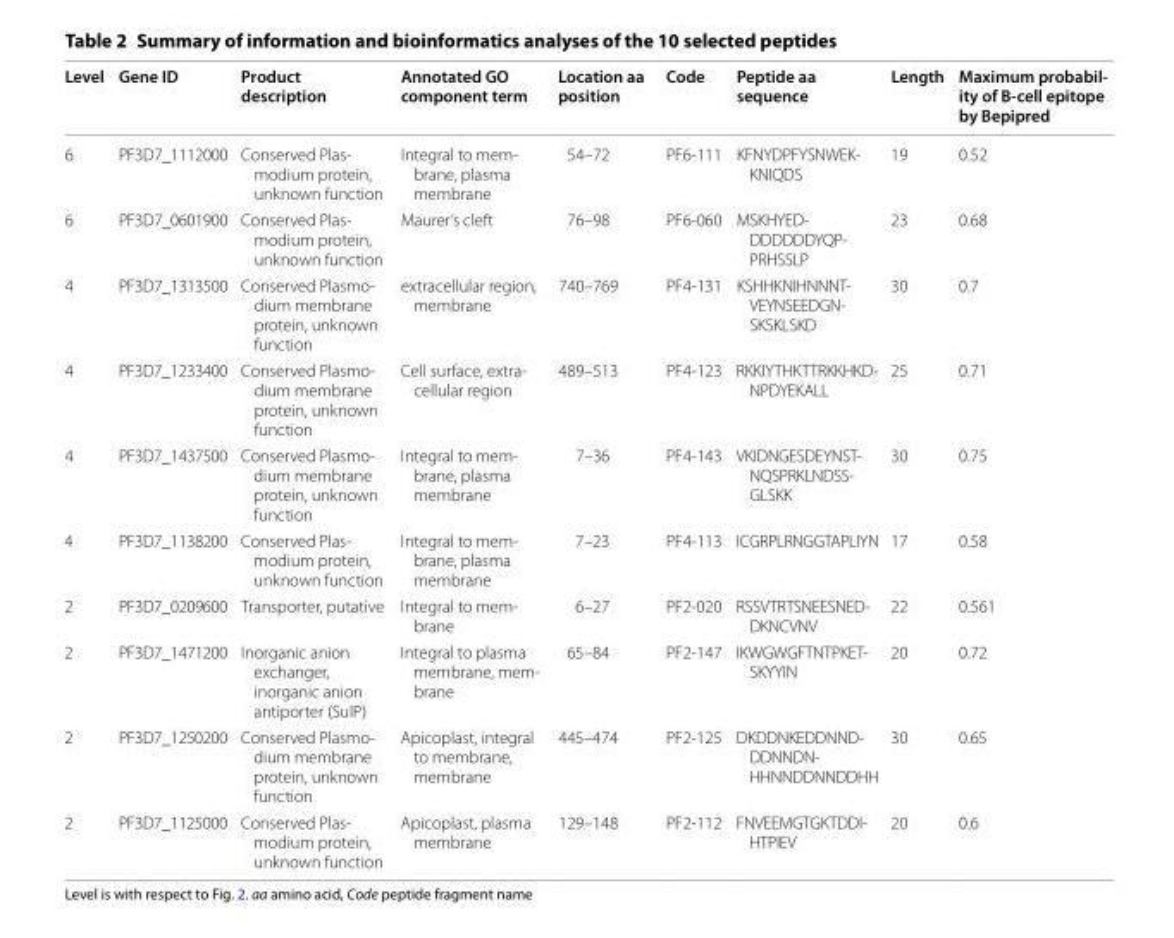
<table><thead><tr><td>Level</td><td>Gene ID</td><td>Product description</td><td>Annotated GO component term</td><td>Location aa position</td><td>Code</td><td>Peptide aa sequence</td><td>Length</td><td>Maximum probabil‑ ity of B‑cell epitope by Bepipred</td></tr></thead><tbody><tr><td>6</td><td>PF3D7_1112000</td><td>Conserved Plas- modium protein, unknown function</td><td>Integral to mem- brane, plasma membrane</td><td>54–72</td><td>PF6-111</td><td>KFNYDPFYSNWEK- KNIQDS</td><td>19</td><td>0.52</td></tr><tr><td>6</td><td>PF3D7_0601900</td><td>Conserved Plas- modium protein, unknown function</td><td>Maurer’s cleft</td><td>76–98</td><td>PF6-060</td><td>MSKHYED- DDDDDDYQP- PRHSSLP</td><td>23</td><td>0.68</td></tr><tr><td>4</td><td>PF3D7_1313500</td><td>Conserved Plasmo- dium membrane protein, unknown function</td><td>extracellular region, membrane</td><td>740–769</td><td>PF4-131</td><td>KSHHKNIHNNNT- VEYNSEEDGN- SKSKLSKD</td><td>30</td><td>0.7</td></tr><tr><td>4</td><td>PF3D7_1233400</td><td>Conserved Plasmo- dium membrane protein, unknown function</td><td>Cell surface, extra- cellular region</td><td>489–513</td><td>PF4-123</td><td>RKKIYTHKTTRKKHKD- NPDYEKALL</td><td>25</td><td>0.71</td></tr><tr><td>4</td><td>PF3D7_1437500</td><td>Conserved Plasmo- dium membrane protein, unknown function</td><td>Integral to mem- brane, plasma membrane</td><td>7–36</td><td>PF4-143</td><td>VKIDNGESDEYNST- NQSPRKLNDSS- GLSKK</td><td>30</td><td>0.75</td></tr><tr><td>4</td><td>PF3D7_1138200</td><td>Conserved Plas- modium protein, unknown function</td><td>Integral to mem- brane, plasma membrane</td><td>7–23</td><td>PF4-113</td><td>ICGRPLRNGGTAPLIYN</td><td>17</td><td>0.58</td></tr><tr><td>2</td><td>PF3D7_0209600</td><td>Transporter, putative</td><td>Integral to mem- brane</td><td>6–27</td><td>PF2-020</td><td>RSSVTRTSNEESNED- DKNCVNV</td><td>22</td><td>0.561</td></tr><tr><td>2</td><td>PF3D7_1471200</td><td>Inorganic anion exchanger, inorganic anion antiporter (SulP)</td><td>Integral to plasma membrane, mem- brane</td><td>65–84</td><td>PF2-147</td><td>IKWGWGFTNTPKET- SKYYIN</td><td>20</td><td>0.72</td></tr><tr><td>2</td><td>PF3D7_1250200</td><td>Conserved Plasmo- dium membrane protein, unknown function</td><td>Apicoplast, integral to membrane, membrane</td><td>445–474</td><td>PF2-125</td><td>DKDDNKEDDNND- DDNNDN- HHNNDDNNDDHH</td><td>30</td><td>0.65</td></tr><tr><td>2</td><td>PF3D7_1125000</td><td>Conserved Plas- modium protein, unknown function</td><td>Apicoplast, plasma membrane</td><td>129–148</td><td>PF2-112</td><td>FNVEEMGTGKTDDI- HTPIEV</td><td>20</td><td>0.6</td></tr></tbody></table>